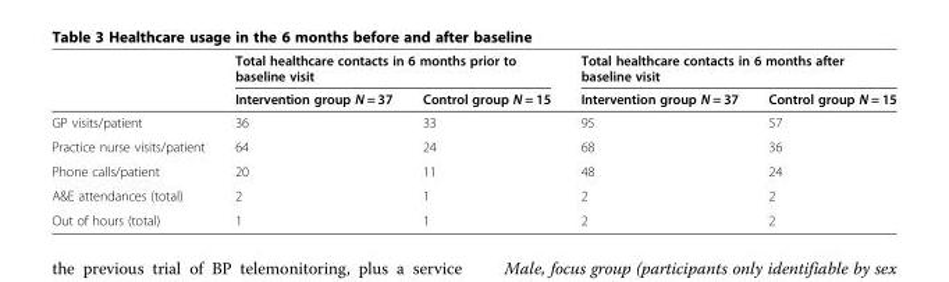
<table><thead><tr><td rowspan="2"></td><td colspan="2">Total healthcare contacts in 6 months prior to baseline visit</td><td colspan="2">Total healthcare contacts in 6 months after baseline visit</td></tr><tr><td>Intervention group N = 37</td><td>Control group N = 15</td><td>Intervention group N = 37</td><td>Control group N = 15</td></tr></thead><tbody><tr><td>GP visits/patient</td><td>36</td><td>33</td><td>95</td><td>57</td></tr><tr><td>Practice nurse visits/patient</td><td>64</td><td>24</td><td>68</td><td>36</td></tr><tr><td>Phone calls/patient</td><td>20</td><td>11</td><td>48</td><td>24</td></tr><tr><td>A&amp;E attendances (total)</td><td>2</td><td>1</td><td>2</td><td>2</td></tr><tr><td>Out of hours (total)</td><td>1</td><td>1</td><td>2</td><td>2</td></tr></tbody></table>